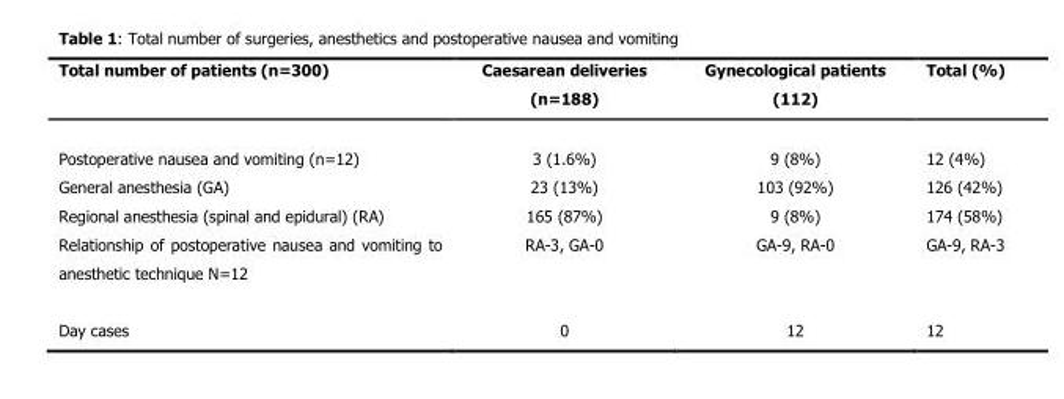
<table><thead><tr><td>Total number of patients (n=300)</td><td>Caesarean deliveries (n=188)</td><td>Gynecological patients (112)</td><td>Total (%)</td></tr></thead><tbody><tr><td>Postoperative nausea and vomiting (n=12)</td><td>3 (1.6%)</td><td>9 (8%)</td><td>12 (4%)</td></tr><tr><td>General anesthesia (GA)</td><td>23 (13%)</td><td>103 (92%)</td><td>126 (42%)</td></tr><tr><td>Regional anesthesia (spinal and epidural) (RA)</td><td>165 (87%)</td><td>9 (8%)</td><td>174 (58%)</td></tr><tr><td>Relationship of postoperative nausea and vomiting to anesthetic technique N=12</td><td>RA-3, GA-0</td><td>GA-9, RA-0</td><td>GA-9, RA-3</td></tr><tr><td>Day cases</td><td>0</td><td>12</td><td>12</td></tr></tbody></table>